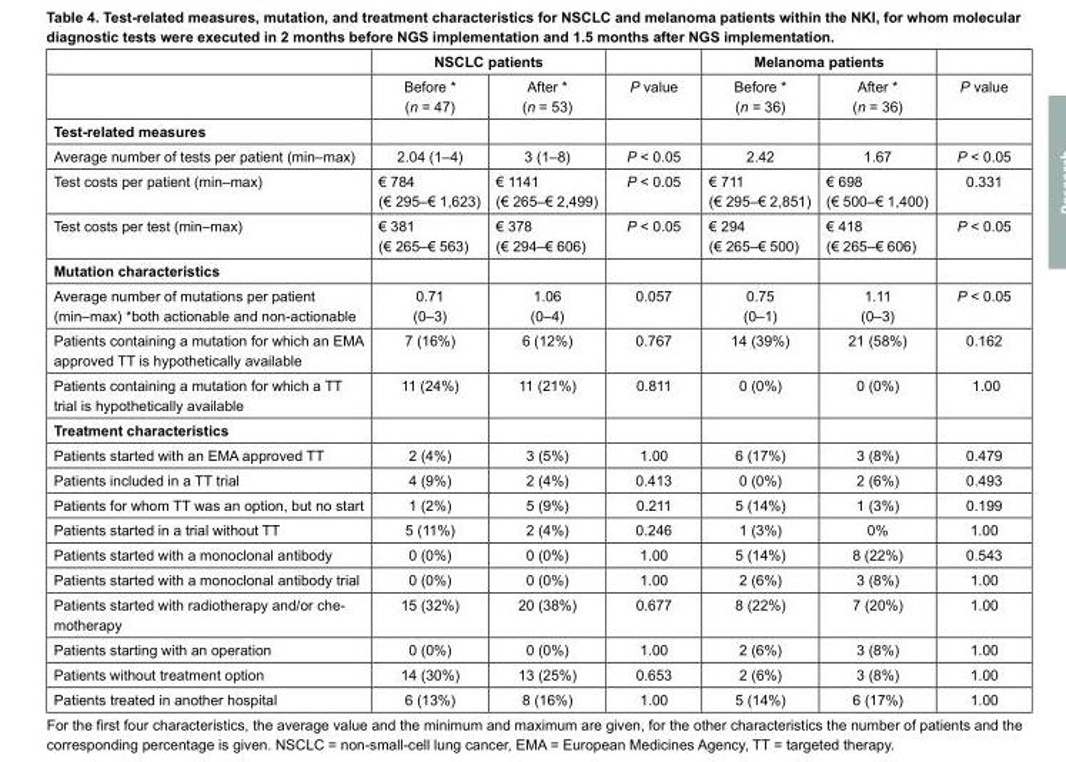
<table><thead><tr><td rowspan="2"></td><td colspan="2">NSCLC patients</td><td rowspan="2">P value</td><td colspan="2">Melanoma patients</td><td rowspan="2">P value</td></tr><tr><td>Before * (n = 47)</td><td>After * (n = 53)</td><td>Before * (n = 36)</td><td>After * (n = 36)</td></tr></thead><tbody><tr><td colspan="7">Test-related measures</td></tr><tr><td>Average number of tests per patient (min–max)</td><td>2.04 (1–4)</td><td>3 (1–8)</td><td>P &lt; 0.05</td><td>2.42</td><td>1.67</td><td>P &lt; 0.05</td></tr><tr><td>Test costs per patient (min–max)</td><td>€ 784 (€ 295–€ 1,623)</td><td>€ 1141 (€ 265–€ 2,499)</td><td>P &lt; 0.05</td><td>€ 711 (€ 295–€ 2,851)</td><td>€ 698 (€ 500–€ 1,400)</td><td>0.331</td></tr><tr><td>Test costs per test (min–max)</td><td>€ 381 (€ 265–€ 563)</td><td>€ 378 (€ 294–€ 606)</td><td>P &lt; 0.05</td><td>€ 294 (€ 265–€ 500)</td><td>€ 418 (€ 265–€ 606)</td><td>P &lt; 0.05</td></tr><tr><td colspan="7">Mutation characteristics</td></tr><tr><td>Average number of mutations per patient (min–max) *both actionable and non-actionable</td><td>0.71 (0–3)</td><td>1.06 (0–4)</td><td>0.057</td><td>0.75 (0–1)</td><td>1.11 (0–3)</td><td>P &lt; 0.05</td></tr><tr><td>Patients containing a mutation for which an EMA approved TT is hypothetically available</td><td>7 (16%)</td><td>6 (12%)</td><td>0.767</td><td>14 (39%)</td><td>21 (58%)</td><td>0.162</td></tr><tr><td>Patients containing a mutation for which a TT trial is hypothetically available</td><td>11 (24%)</td><td>11 (21%)</td><td>0.811</td><td>0 (0%)</td><td>0 (0%)</td><td>1.00</td></tr><tr><td colspan="7">Treatment characteristics</td></tr><tr><td>Patients started with an EMA approved TT</td><td>2 (4%)</td><td>3 (5%)</td><td>1.00</td><td>6 (17%)</td><td>3 (8%)</td><td>0.479</td></tr><tr><td>Patients included in a TT trial</td><td>4 (9%)</td><td>2 (4%)</td><td>0.413</td><td>0 (0%)</td><td>2 (6%)</td><td>0.493</td></tr><tr><td>Patients for whom TT was an option, but no start</td><td>1 (2%)</td><td>5 (9%)</td><td>0.211</td><td>5 (14%)</td><td>1 (3%)</td><td>0.199</td></tr><tr><td>Patients started in a trial without TT</td><td>5 (11%)</td><td>2 (4%)</td><td>0.246</td><td>1 (3%)</td><td>0%</td><td>1.00</td></tr><tr><td>Patients started with a monoclonal antibody</td><td>0 (0%)</td><td>0 (0%)</td><td>1.00</td><td>5 (14%)</td><td>8 (22%)</td><td>0.543</td></tr><tr><td>Patients started with a monoclonal antibody trial</td><td>0 (0%)</td><td>0 (0%)</td><td>1.00</td><td>2 (6%)</td><td>3 (8%)</td><td>1.00</td></tr><tr><td>Patients started with radiotherapy and/or che- motherapy</td><td>15 (32%)</td><td>20 (38%)</td><td>0.677</td><td>8 (22%)</td><td>7 (20%)</td><td>1.00</td></tr><tr><td>Patients starting with an operation</td><td>0 (0%)</td><td>0 (0%)</td><td>1.00</td><td>2 (6%)</td><td>3 (8%)</td><td>1.00</td></tr><tr><td>Patients without treatment option</td><td>14 (30%)</td><td>13 (25%)</td><td>0.653</td><td>2 (6%)</td><td>3 (8%)</td><td>1.00</td></tr><tr><td>Patients treated in another hospital</td><td>6 (13%)</td><td>8 (16%)</td><td>1.00</td><td>5 (14%)</td><td>6 (17%)</td><td>1.00</td></tr></tbody></table>